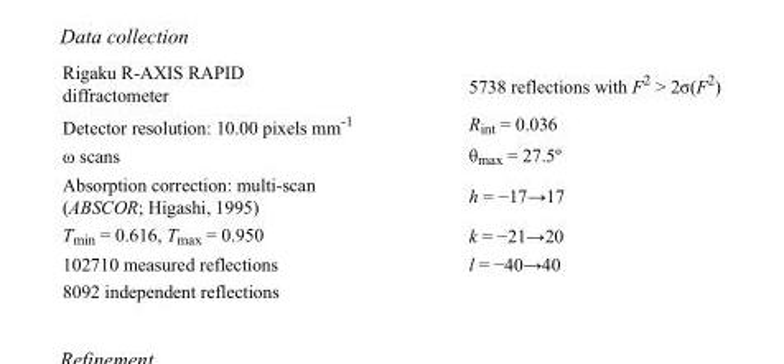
<table><tbody><tr><td>Rigaku R-AXIS RAPID diffractometer</td><td>5738 reflections with F<sup>2</sup> &gt; 2σ(F<sup>2</sup>)</td></tr><tr><td>Detector resolution: 10.00 pixels mm<sup>-1</sup></td><td>R<sub>int</sub> = 0.036</td></tr><tr><td>ω scans</td><td>θmax = 27.5º</td></tr><tr><td>Absorption correction: multi-scan (ABSCOR; Higashi, 1995)</td><td>h = −17→17</td></tr><tr><td>T<sub>min</sub> = 0.616, T<sub>max</sub> = 0.950</td><td>k = −21→20</td></tr><tr><td>102710 measured reflections</td><td>l = −40→40</td></tr><tr><td>8092 independent reflections</td><td></td></tr></tbody></table>